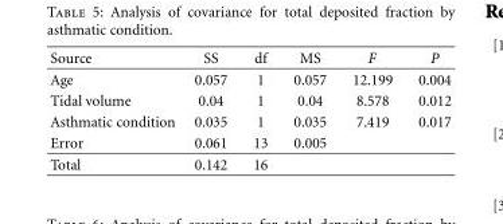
<table><thead><tr><td>Source</td><td>SS</td><td>df</td><td>MS</td><td>F</td><td>P</td></tr></thead><tbody><tr><td>Age</td><td>0.057</td><td>1</td><td>0.057</td><td>12.199</td><td>0.004</td></tr><tr><td>Tidal volume</td><td>0.04</td><td>1</td><td>0.04</td><td>8.578</td><td>0.012</td></tr><tr><td>Asthmatic condition</td><td>0.035</td><td>1</td><td>0.035</td><td>7.419</td><td>0.017</td></tr><tr><td>Error</td><td>0.061</td><td>13</td><td>0.005</td><td></td><td></td></tr><tr><td>Total</td><td>0.142</td><td>16</td><td></td><td></td><td></td></tr></tbody></table>